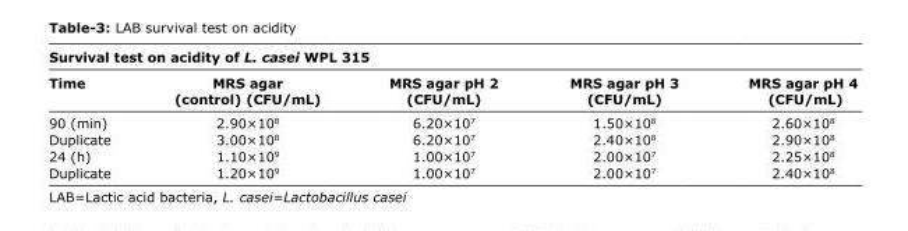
<table><thead><tr><td colspan="5">Survival test on acidity of L. casei WPL 315</td></tr><tr><td>Time</td><td>MRS agar (control) (CFU/mL)</td><td>MRS agar pH 2 (CFU/mL)</td><td>MRS agar pH 3 (CFU/mL)</td><td>MRS agar pH 4 (CFU/mL)</td></tr></thead><tbody><tr><td>90 (min)</td><td>2.90×10<sup>8</sup></td><td>6.20×10<sup>7</sup></td><td>1.50×10<sup>8</sup></td><td>2.60×10<sup>8</sup></td></tr><tr><td>Duplicate</td><td>3.00×10<sup>8</sup></td><td>6.20×10<sup>7</sup></td><td>2.40×10<sup>8</sup></td><td>2.90×10<sup>8</sup></td></tr><tr><td>24 (h)</td><td>1.10×10<sup>9</sup></td><td>1.00×10<sup>7</sup></td><td>2.00×10<sup>7</sup></td><td>2.25×10<sup>8</sup></td></tr><tr><td>Duplicate</td><td>1.20×10<sup>9</sup></td><td>1.00×10<sup>7</sup></td><td>2.00×10<sup>7</sup></td><td>2.40×10<sup>8</sup></td></tr></tbody></table>